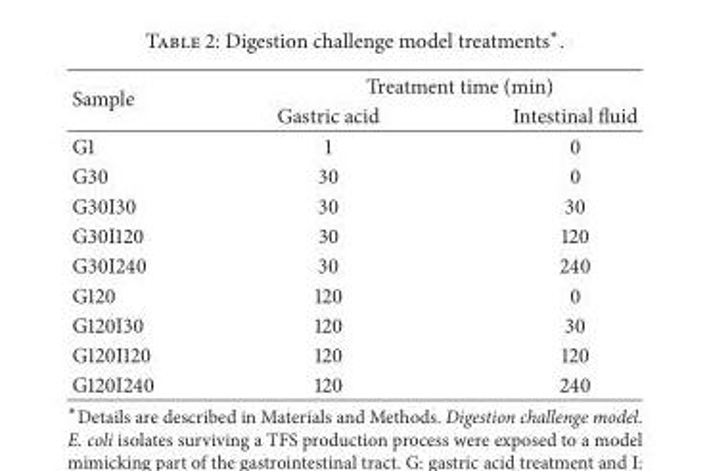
<table><thead><tr><td rowspan="2">Sample</td><td colspan="2">Treatment time (min)</td></tr><tr><td>Gastric acid</td><td>Intestinal fluid</td></tr></thead><tbody><tr><td>G1</td><td>1</td><td>0</td></tr><tr><td>G30</td><td>30</td><td>0</td></tr><tr><td>G30I30</td><td>30</td><td>30</td></tr><tr><td>G30I120</td><td>30</td><td>120</td></tr><tr><td>G30I240</td><td>30</td><td>240</td></tr><tr><td>G120</td><td>120</td><td>0</td></tr><tr><td>G120I30</td><td>120</td><td>30</td></tr><tr><td>G120I120</td><td>120</td><td>120</td></tr><tr><td>G120I240</td><td>120</td><td>240</td></tr></tbody></table>